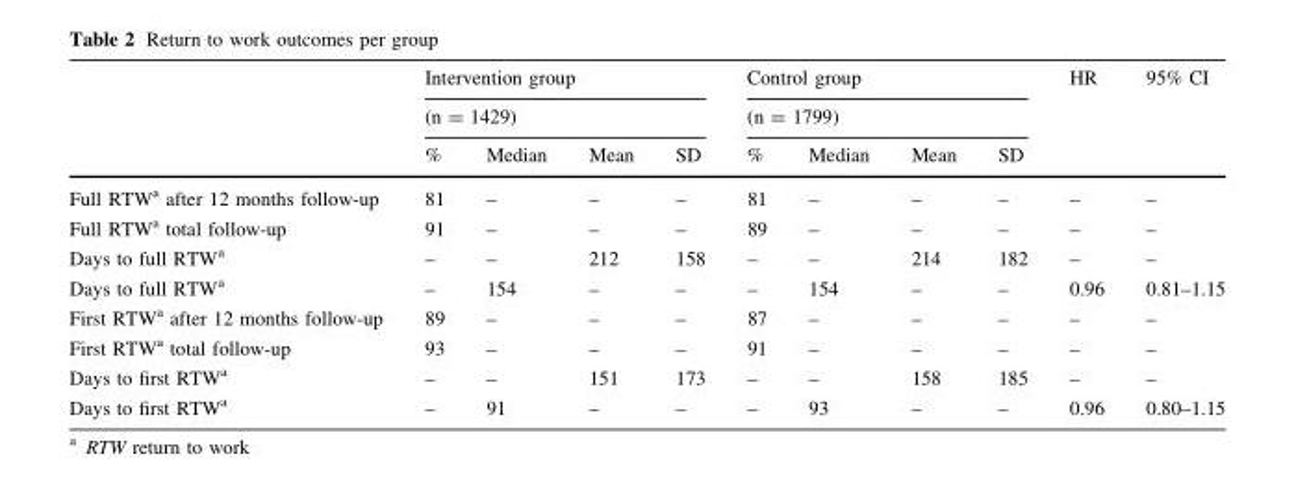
<table><thead><tr><td rowspan="3"></td><td rowspan="2" colspan="4">Intervention group (n = 1429)</td><td rowspan="2" colspan="4">Control group (n = 1799)</td><td rowspan="3">HR</td><td rowspan="3">95% CI</td></tr><tr></tr><tr><td>%</td><td>Median</td><td>Mean</td><td>SD</td><td>%</td><td>Median</td><td>Mean</td><td>SD</td></tr></thead><tbody><tr><td>Full RTW<sup>a</sup> after 12 months follow-up</td><td>81</td><td>–</td><td>–</td><td>–</td><td>81</td><td>–</td><td>–</td><td>–</td><td>–</td><td>–</td></tr><tr><td>Full RTW<sup>a</sup> total follow-up</td><td>91</td><td>–</td><td>–</td><td>–</td><td>89</td><td>–</td><td>–</td><td>–</td><td>–</td><td>–</td></tr><tr><td>Days to full RTW<sup>a</sup></td><td>–</td><td>–</td><td>212</td><td>158</td><td>–</td><td>–</td><td>214</td><td>182</td><td>–</td><td>–</td></tr><tr><td>Days to full RTW<sup>a</sup></td><td>–</td><td>154</td><td>–</td><td>–</td><td>–</td><td>154</td><td>–</td><td>–</td><td>0.96</td><td>0.81–1.15</td></tr><tr><td>First RTW<sup>a</sup> after 12 months follow-up</td><td>89</td><td>–</td><td>–</td><td>–</td><td>87</td><td>–</td><td>–</td><td>–</td><td>–</td><td>–</td></tr><tr><td>First RTW<sup>a</sup> total follow-up</td><td>93</td><td>–</td><td>–</td><td>–</td><td>91</td><td>–</td><td>–</td><td>–</td><td>–</td><td>–</td></tr><tr><td>Days to first RTW<sup>a</sup></td><td>–</td><td>–</td><td>151</td><td>173</td><td>–</td><td>–</td><td>158</td><td>185</td><td>–</td><td>–</td></tr><tr><td>Days to first RTW<sup>a</sup></td><td>–</td><td>91</td><td>–</td><td>–</td><td>–</td><td>93</td><td>–</td><td>–</td><td>0.96</td><td>0.80–1.15</td></tr></tbody></table>